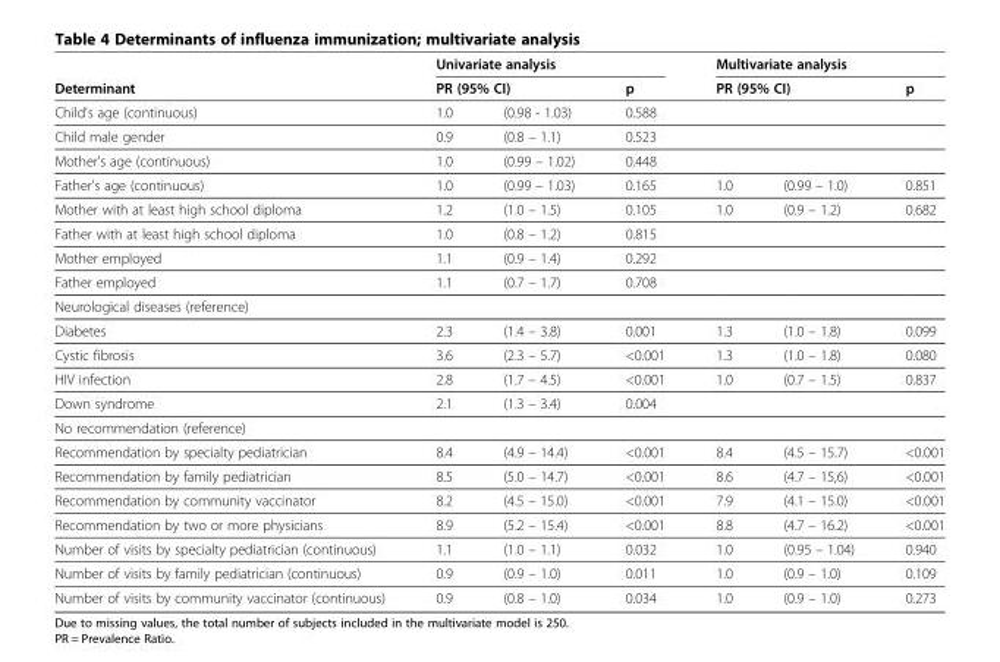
<table><thead><tr><td rowspan="3">Determinant Child&#x27;s age (continuous)</td><td colspan="3">Univariate analysis</td><td colspan="3">Multivariate analysis</td></tr><tr><td colspan="2">PR (95% CI)</td><td rowspan="2">p 0.588</td><td colspan="2">PR (95% CI)</td><td rowspan="2">p</td></tr><tr><td>1.0</td><td>(0.98 - 1.03)</td><td></td><td></td></tr></thead><tbody><tr><td>Child male gender</td><td>0.9</td><td>(0.8 – 1.1)</td><td>0.523</td><td></td><td></td><td></td></tr><tr><td>Mother&#x27;s age (continuous)</td><td>1.0</td><td>(0.99 – 1.02)</td><td>0.448</td><td></td><td></td><td></td></tr><tr><td>Father&#x27;s age (continuous)</td><td>1.0</td><td>(0.99 – 1.03)</td><td>0.165</td><td>1.0</td><td>(0.99 – 1.0)</td><td>0.851</td></tr><tr><td>Mother with at least high school diploma</td><td>1.2</td><td>(1.0 – 1.5)</td><td>0.105</td><td>1.0</td><td>(0.9 – 1.2)</td><td>0.682</td></tr><tr><td>Father with at least high school diploma</td><td>1.0</td><td>(0.8 – 1.2)</td><td>0.815</td><td></td><td></td><td></td></tr><tr><td>Mother employed</td><td>1.1</td><td>(0.9 – 1.4)</td><td>0.292</td><td></td><td></td><td></td></tr><tr><td>Father employed</td><td>1.1</td><td>(0.7 – 1.7)</td><td>0.708</td><td></td><td></td><td></td></tr><tr><td colspan="7">Neurological diseases (reference)</td></tr><tr><td>Diabetes</td><td>2.3</td><td>(1.4 – 3.8)</td><td>0.001</td><td>1.3</td><td>(1.0 – 1.8)</td><td>0.099</td></tr><tr><td>Cystic fibrosis</td><td>3.6</td><td>(2.3 – 5.7)</td><td>&lt;0.001</td><td>1.3</td><td>(1.0 – 1.8)</td><td>0.080</td></tr><tr><td>HIV infection</td><td>2.8</td><td>(1.7 – 4.5)</td><td>&lt;0.001</td><td>1.0</td><td>(0.7 – 1.5)</td><td>0.837</td></tr><tr><td>Down syndrome</td><td>2.1</td><td>(1.3 – 3.4)</td><td>0.004</td><td></td><td></td><td></td></tr><tr><td colspan="7">No recommendation (reference)</td></tr><tr><td>Recommendation by specialty pediatrician</td><td>8.4</td><td>(4.9 – 14.4)</td><td>&lt;0.001</td><td>8.4</td><td>(4.5 – 15.7)</td><td>&lt;0.001</td></tr><tr><td>Recommendation by family pediatrician</td><td>8.5</td><td>(5.0 – 14.7)</td><td>&lt;0.001</td><td>8.6</td><td>(4.7 – 15,6)</td><td>&lt;0.001</td></tr><tr><td>Recommendation by community vaccinator</td><td>8.2</td><td>(4.5 – 15.0)</td><td>&lt;0.001</td><td>7.9</td><td>(4.1 – 15.0)</td><td>&lt;0.001</td></tr><tr><td>Recommendation by two or more physicians</td><td>8.9</td><td>(5.2 – 15.4)</td><td>&lt;0.001</td><td>8.8</td><td>(4.7 – 16.2)</td><td>&lt;0.001</td></tr><tr><td>Number of visits by specialty pediatrician (continuous)</td><td>1.1</td><td>(1.0 – 1.1)</td><td>0.032</td><td>1.0</td><td>(0.95 – 1.04)</td><td>0.940</td></tr><tr><td>Number of visits by family pediatrician (continuous)</td><td>0.9</td><td>(0.9 – 1.0)</td><td>0.011</td><td>1.0</td><td>(0.9 – 1.0)</td><td>0.109</td></tr><tr><td>Number of visits by community vaccinator (continuous)</td><td>0.9</td><td>(0.8 – 1.0)</td><td>0.034</td><td>1.0</td><td>(0.9 – 1.0)</td><td>0.273</td></tr></tbody></table>